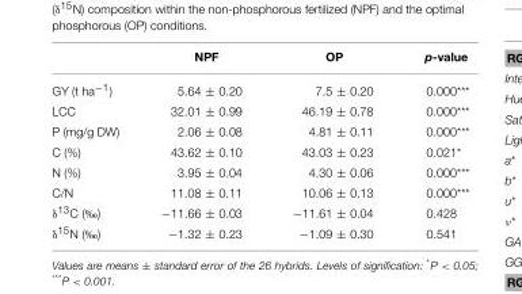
<table><thead><tr><td></td><td>NPF</td><td>OP</td><td>p-value</td></tr></thead><tbody><tr><td>GY (t ha<sup>−1</sup>)</td><td>5.64 ± 0.20</td><td>7.5 ± 0.20</td><td>0.000***</td></tr><tr><td>LCC</td><td>32.01 ± 0.99</td><td>46.19 ± 0.78</td><td>0.000***</td></tr><tr><td>P (mg/g DW)</td><td>2.06 ± 0.08</td><td>4.81 ± 0.11</td><td>0.000***</td></tr><tr><td>C (%)</td><td>43.62 ± 0.10</td><td>43.03 ± 0.23</td><td>0.021*</td></tr><tr><td>N (%)</td><td>3.95 ± 0.04</td><td>4.30 ± 0.06</td><td>0.000***</td></tr><tr><td>C/N</td><td>11.08 ± 0.11</td><td>10.06 ± 0.13</td><td>0.000***</td></tr><tr><td>δ13C (‰)</td><td>−11.66 ± 0.03</td><td>−11.61 ± 0.04</td><td>0.428</td></tr><tr><td>δ15N (‰)</td><td>−1.32 ± 0.23</td><td>−1.09 ± 0.30</td><td>0.541</td></tr></tbody></table>